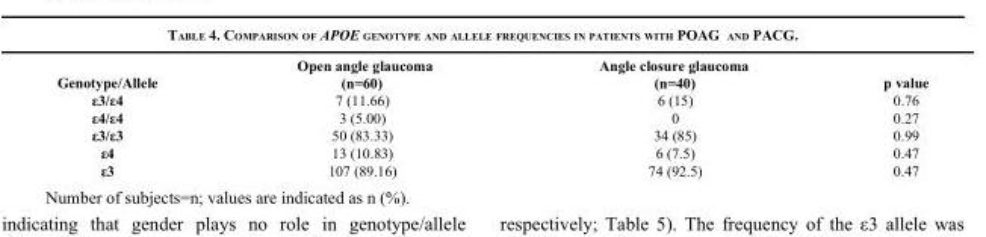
<table><thead><tr><td>Genotype/Allele</td><td>Open angle glaucoma (n=60)</td><td>Angle closure glaucoma (n=40)</td><td>p value</td></tr></thead><tbody><tr><td>ε3/ε4</td><td>7 (11.66)</td><td>6 (15)</td><td>0.76</td></tr><tr><td>ε4/ε4</td><td>3 (5.00)</td><td>0</td><td>0.27</td></tr><tr><td>ε3/ε3</td><td>50 (83.33)</td><td>34 (85)</td><td>0.99</td></tr><tr><td>ε4</td><td>13 (10.83)</td><td>6 (7.5)</td><td>0.47</td></tr><tr><td>ε3</td><td>107 (89.16)</td><td>74 (92.5)</td><td>0.47</td></tr></tbody></table>